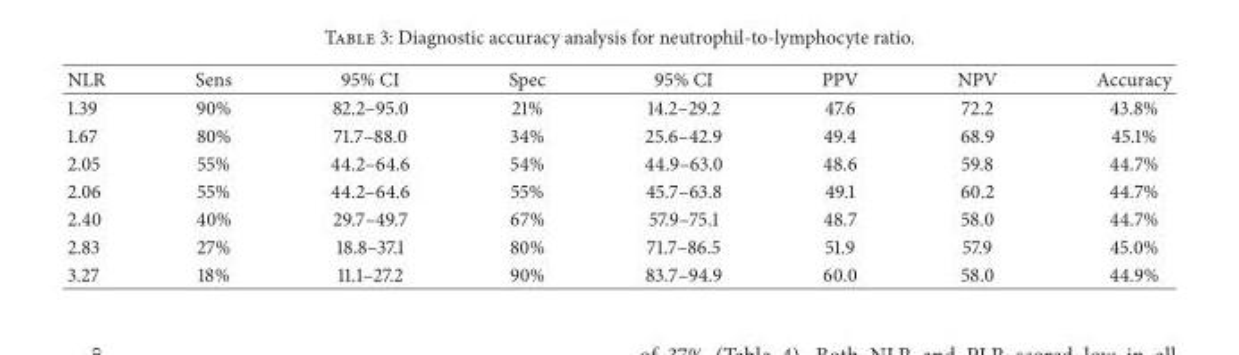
<table><thead><tr><td>NLR</td><td>Sens</td><td>95% CI</td><td>Spec</td><td>95% CI</td><td>PPV</td><td>NPV</td><td>Accuracy</td></tr></thead><tbody><tr><td>1.39</td><td>90%</td><td>82.2–95.0</td><td>21%</td><td>14.2–29.2</td><td>47.6</td><td>72.2</td><td>43.8%</td></tr><tr><td>1.67</td><td>80%</td><td>71.7–88.0</td><td>34%</td><td>25.6–42.9</td><td>49.4</td><td>68.9</td><td>45.1%</td></tr><tr><td>2.05</td><td>55%</td><td>44.2–64.6</td><td>54%</td><td>44.9–63.0</td><td>48.6</td><td>59.8</td><td>44.7%</td></tr><tr><td>2.06</td><td>55%</td><td>44.2–64.6</td><td>55%</td><td>45.7–63.8</td><td>49.1</td><td>60.2</td><td>44.7%</td></tr><tr><td>2.40</td><td>40%</td><td>29.7–49.7</td><td>67%</td><td>57.9–75.1</td><td>48.7</td><td>58.0</td><td>44.7%</td></tr><tr><td>2.83</td><td>27%</td><td>18.8–37.1</td><td>80%</td><td>71.7–86.5</td><td>51.9</td><td>57.9</td><td>45.0%</td></tr><tr><td>3.27</td><td>18%</td><td>11.1–27.2</td><td>90%</td><td>83.7–94.9</td><td>60.0</td><td>58.0</td><td>44.9%</td></tr></tbody></table>